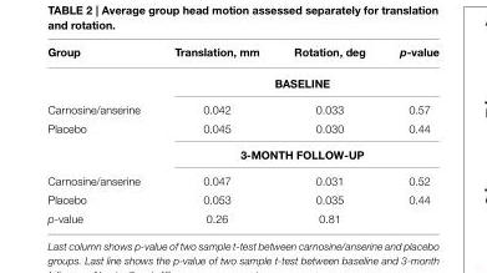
<table><thead><tr><td>Group</td><td>Translation, mm</td><td>Rotation, deg</td><td>p-value</td></tr></thead><tbody><tr><td></td><td colspan="3">BASELINE</td></tr><tr><td>Carnosine/anserine</td><td>0.042</td><td>0.033</td><td>0.57</td></tr><tr><td rowspan="2">Placebo</td><td>0.045</td><td>0.030</td><td>0.44</td></tr><tr><td colspan="3">3-MONTH FOLLOW-UP</td></tr><tr><td>Carnosine/anserine</td><td>0.047</td><td>0.031</td><td>0.52</td></tr><tr><td>Placebo</td><td>0.053</td><td>0.035</td><td>0.44</td></tr><tr><td>p-value</td><td>0.26</td><td>0.81</td><td></td></tr></tbody></table>